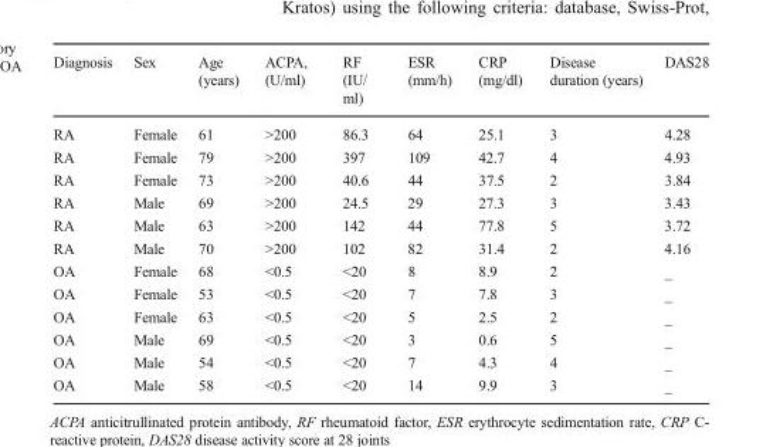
<table><thead><tr><td>Diagnosis</td><td>Sex</td><td>Age (years)</td><td>ACPA, (U/ml)</td><td>RF (IU/ ml)</td><td>ESR (mm/h)</td><td>CRP (mg/dl)</td><td>Disease duration (years)</td><td>DAS28</td></tr></thead><tbody><tr><td>RA</td><td>Female</td><td>61</td><td>&gt;200</td><td>86.3</td><td>64</td><td>25.1</td><td>3</td><td>4.28</td></tr><tr><td>RA</td><td>Female</td><td>79</td><td>&gt;200</td><td>397</td><td>109</td><td>42.7</td><td>4</td><td>4.93</td></tr><tr><td>RA</td><td>Female</td><td>73</td><td>&gt;200</td><td>40.6</td><td>44</td><td>37.5</td><td>2</td><td>3.84</td></tr><tr><td>RA</td><td>Male</td><td>69</td><td>&gt;200</td><td>24.5</td><td>29</td><td>27.3</td><td>3</td><td>3.43</td></tr><tr><td>RA</td><td>Male</td><td>63</td><td>&gt;200</td><td>142</td><td>44</td><td>77.8</td><td>5</td><td>3.72</td></tr><tr><td>RA</td><td>Male</td><td>70</td><td>&gt;200</td><td>102</td><td>82</td><td>31.4</td><td>2</td><td>4.16</td></tr><tr><td>OA</td><td>Female</td><td>68</td><td>&lt;0.5</td><td>&lt;20</td><td>8</td><td>8.9</td><td>2</td><td>_</td></tr><tr><td>OA</td><td>Female</td><td>53</td><td>&lt;0.5</td><td>&lt;20</td><td>7</td><td>7.8</td><td>3</td><td>_</td></tr><tr><td>OA</td><td>Female</td><td>63</td><td>&lt;0.5</td><td>&lt;20</td><td>5</td><td>2.5</td><td>2</td><td>_</td></tr><tr><td>OA</td><td>Male</td><td>69</td><td>&lt;0.5</td><td>&lt;20</td><td>3</td><td>0.6</td><td>5</td><td>_</td></tr><tr><td>OA</td><td>Male</td><td>54</td><td>&lt;0.5</td><td>&lt;20</td><td>7</td><td>4.3</td><td>4</td><td>_</td></tr><tr><td>OA</td><td>Male</td><td>58</td><td>&lt;0.5</td><td>&lt;20</td><td>14</td><td>9.9</td><td>3</td><td>_</td></tr></tbody></table>